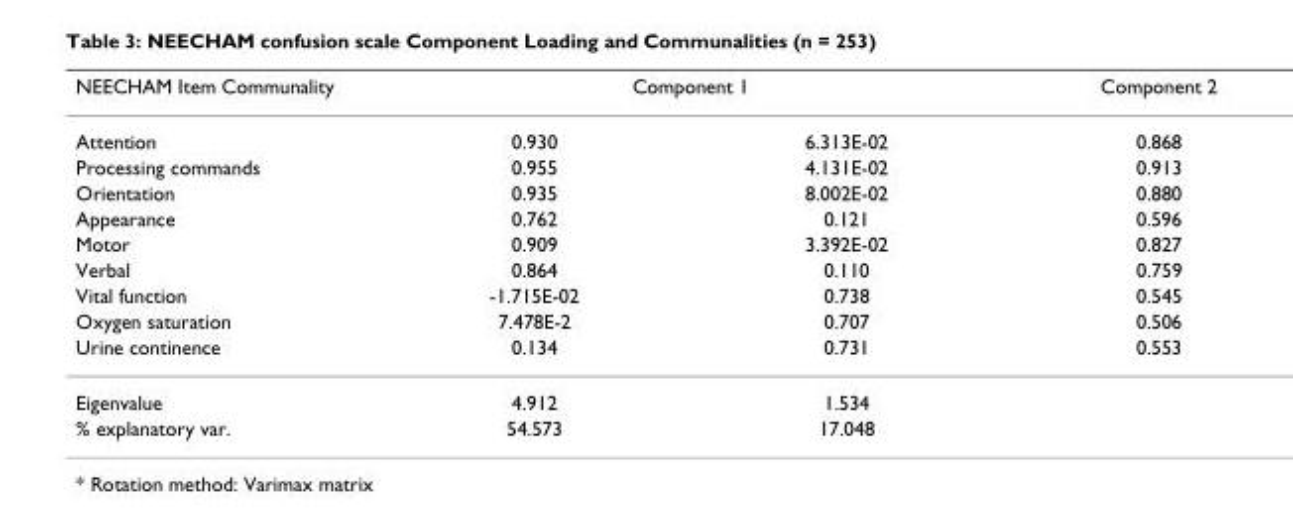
<table><thead><tr><td rowspan="2">NEECHAM Item Communality Attention</td><td colspan="2">Component 1</td><td rowspan="2">Component 2 0.868</td></tr><tr><td>0.930</td><td>6.313E-02</td></tr></thead><tbody><tr><td>Processing commands</td><td>0.955</td><td>4.131E-02</td><td>0.913</td></tr><tr><td>Orientation</td><td>0.935</td><td>8.002E-02</td><td>0.880</td></tr><tr><td>Appearance</td><td>0.762</td><td>0.121</td><td>0.596</td></tr><tr><td>Motor</td><td>0.909</td><td>3.392E-02</td><td>0.827</td></tr><tr><td>Verbal</td><td>0.864</td><td>0.110</td><td>0.759</td></tr><tr><td>Vital function</td><td>-1.715E-02</td><td>0.738</td><td>0.545</td></tr><tr><td>Oxygen saturation</td><td>7.478E-2</td><td>0.707</td><td>0.506</td></tr><tr><td>Urine continence</td><td>0.134</td><td>0.731</td><td>0.553</td></tr><tr><td>Eigenvalue</td><td>4.912</td><td>1.534</td><td></td></tr><tr><td>% explanatory var.</td><td>54.573</td><td>17.048</td><td></td></tr></tbody></table>